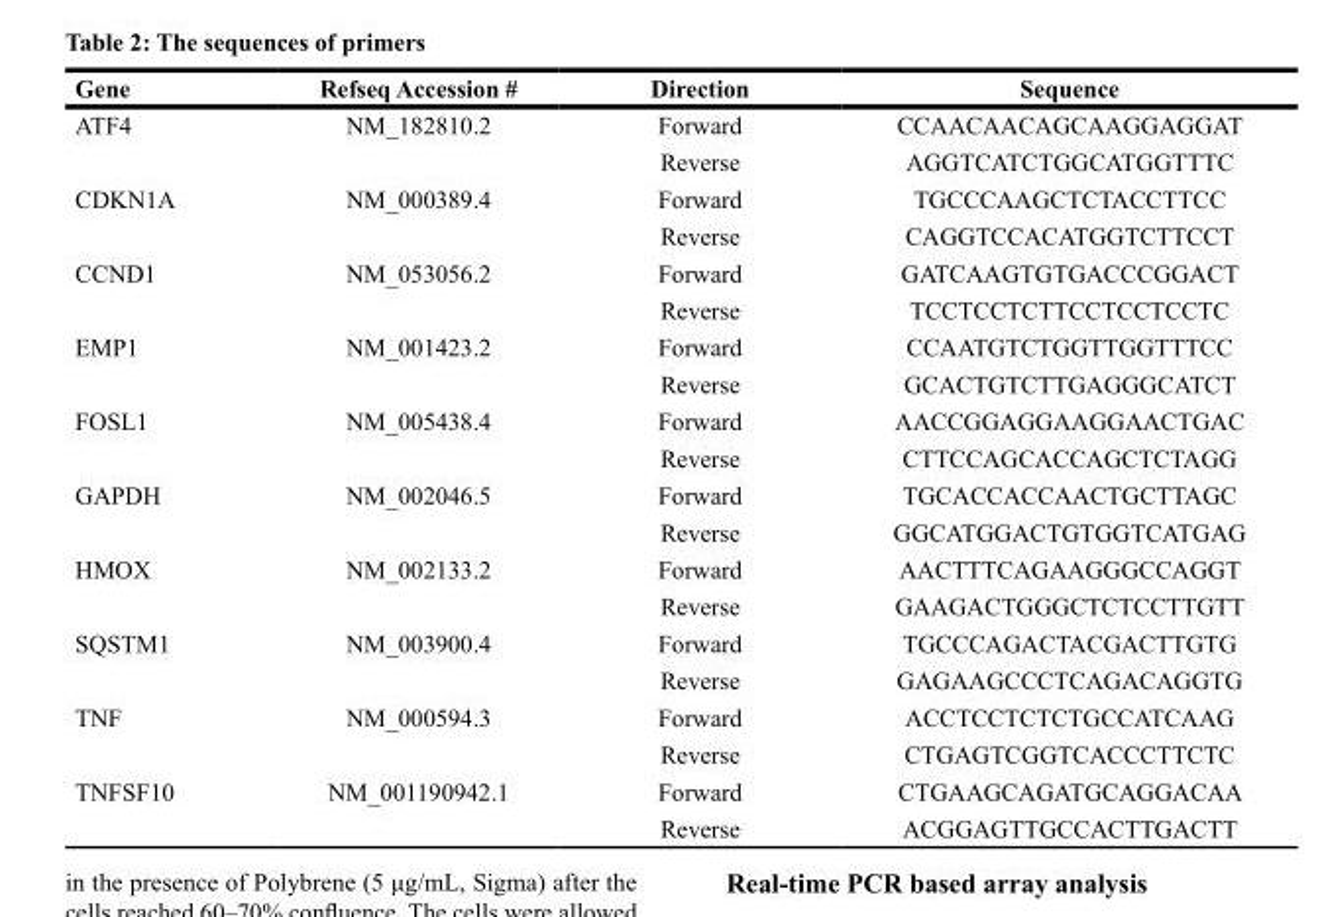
<table><thead><tr><td>Gene</td><td>Refseq Accession #</td><td>Direction</td><td>Sequence</td></tr></thead><tbody><tr><td rowspan="2">ATF4</td><td>NM_182810.2</td><td>Forward</td><td>CCAACAACAGCAAGGAGGAT</td></tr><tr><td></td><td>Reverse</td><td>AGGTCATCTGGCATGGTTTC</td></tr><tr><td rowspan="2">CDKN1A</td><td>NM_000389.4</td><td>Forward</td><td>TGCCCAAGCTCTACCTTCC</td></tr><tr><td></td><td>Reverse</td><td>CAGGTCCACATGGTCTTCCT</td></tr><tr><td rowspan="2">CCND1</td><td>NM_053056.2</td><td>Forward</td><td>GATCAAGTGTGACCCGGACT</td></tr><tr><td></td><td>Reverse</td><td>TCCTCCTCTTCCTCCTCCTC</td></tr><tr><td rowspan="2">EMP1</td><td>NM_001423.2</td><td>Forward</td><td>CCAATGTCTGGTTGGTTTCC</td></tr><tr><td></td><td>Reverse</td><td>GCACTGTCTTGAGGGCATCT</td></tr><tr><td rowspan="2">FOSL1</td><td>NM_005438.4</td><td>Forward</td><td>AACCGGAGGAAGGAACTGAC</td></tr><tr><td></td><td>Reverse</td><td>CTTCCAGCACCAGCTCTAGG</td></tr><tr><td rowspan="2">GAPDH</td><td>NM_002046.5</td><td>Forward</td><td>TGCACCACCAACTGCTTAGC</td></tr><tr><td></td><td>Reverse</td><td>GGCATGGACTGTGGTCATGAG</td></tr><tr><td rowspan="2">HMOX</td><td>NM_002133.2</td><td>Forward</td><td>AACTTTCAGAAGGGCCAGGT</td></tr><tr><td></td><td>Reverse</td><td>GAAGACTGGGCTCTCCTTGTT</td></tr><tr><td rowspan="2">SQSTM1</td><td>NM_003900.4</td><td>Forward</td><td>TGCCCAGACTACGACTTGTG</td></tr><tr><td></td><td>Reverse</td><td>GAGAAGCCCTCAGACAGGTG</td></tr><tr><td rowspan="2">TNF</td><td>NM_000594.3</td><td>Forward</td><td>ACCTCCTCTCTGCCATCAAG</td></tr><tr><td></td><td>Reverse</td><td>CTGAGTCGGTCACCCTTCTC</td></tr><tr><td rowspan="2">TNFSF10</td><td>NM_001190942.1</td><td>Forward</td><td>CTGAAGCAGATGCAGGACAA</td></tr><tr><td></td><td>Reverse</td><td>ACGGAGTTGCCACTTGACTT</td></tr></tbody></table>